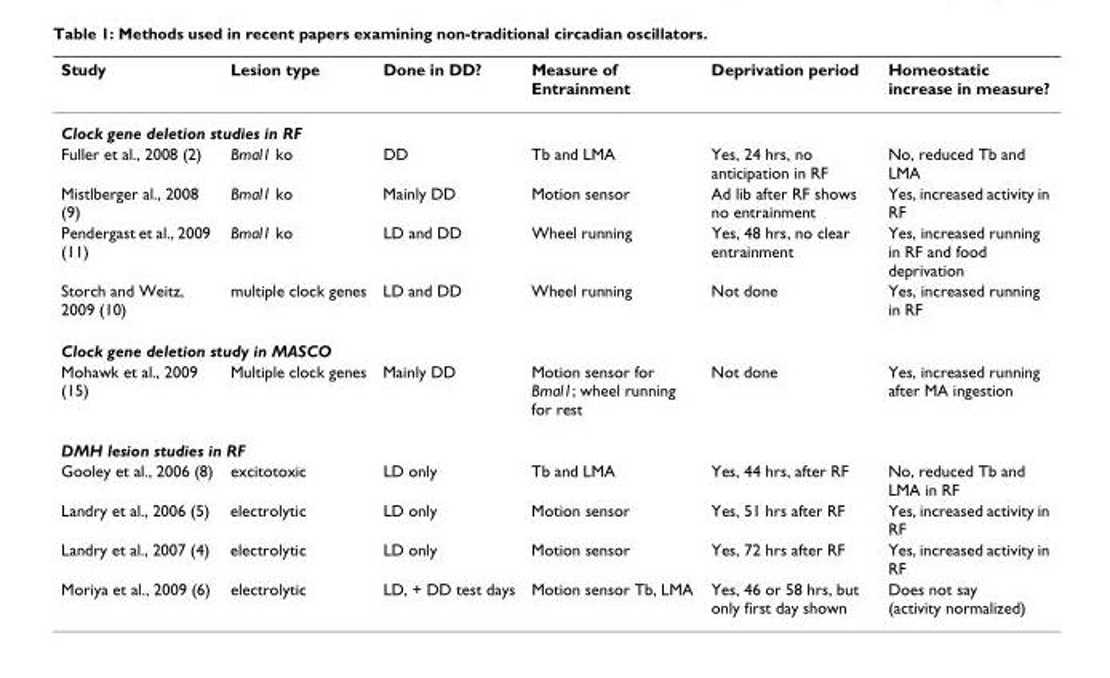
<table><thead><tr><td>Study</td><td>Lesion type</td><td>Done in DD?</td><td>Measure of Entrainment</td><td>Deprivation period</td><td>Homeostatic increase in measure?</td></tr></thead><tbody><tr><td colspan="6">Clock gene deletion studies in RF</td></tr><tr><td>Fuller et al., 2008 (2)</td><td>Bmal1 ko</td><td>DD</td><td>Tb and LMA</td><td>Yes, 24 hrs, no anticipation in RF</td><td>No, reduced Tb and LMA</td></tr><tr><td>Mistlberger al., 2008 (9)</td><td>Bmal1 ko</td><td>Mainly DD</td><td>Motion sensor</td><td>Ad lib after RF shows no entrainment</td><td>Yes, increased activity in RF</td></tr><tr><td>Pendergast et al., 2009 (11)</td><td>Bmal1 ko</td><td>LD and DD</td><td>Wheel running</td><td>Yes, 48 hrs, no clear entrainment</td><td>Yes, increased running in RF and food deprivation</td></tr><tr><td>Storch and Weitz, 2009 (10)</td><td>multiple clock genes</td><td>LD and DD</td><td>Wheel running</td><td>Not done</td><td>Yes, increased running in RF</td></tr><tr><td colspan="6">Clock gene deletion study in MASCO</td></tr><tr><td>Mohawk et al., 2009 (15)</td><td>Multiple clock genes</td><td>Mainly DD</td><td>Motion sensor for Bmal1; wheel running for rest</td><td>Not done</td><td>Yes, increased running after MA ingestion</td></tr><tr><td colspan="6">DMH lesion studies in RF</td></tr><tr><td>Gooley et al., 2006 (8)</td><td>excitotoxic</td><td>LD only</td><td>Tb and LMA</td><td>Yes, 44 hrs, after RF</td><td>No, reduced Tb and LMA in RF</td></tr><tr><td>Landry et al., 2006 (5)</td><td>electrolytic</td><td>LD only</td><td>Motion sensor</td><td>Yes, 51 hrs after RF</td><td>Yes, increased activity in RF</td></tr><tr><td>Landry et al., 2007 (4)</td><td>electrolytic</td><td>LD only</td><td>Motion sensor</td><td>Yes, 72 hrs after RF</td><td>Yes, increased activity in RF</td></tr><tr><td>Moriya et al., 2009 (6)</td><td>electrolytic</td><td>LD, + DD test days</td><td>Motion sensor Tb, LMA</td><td>Yes, 46 or 58 hrs, but only first day shown</td><td>Does not say (activity normalized)</td></tr></tbody></table>